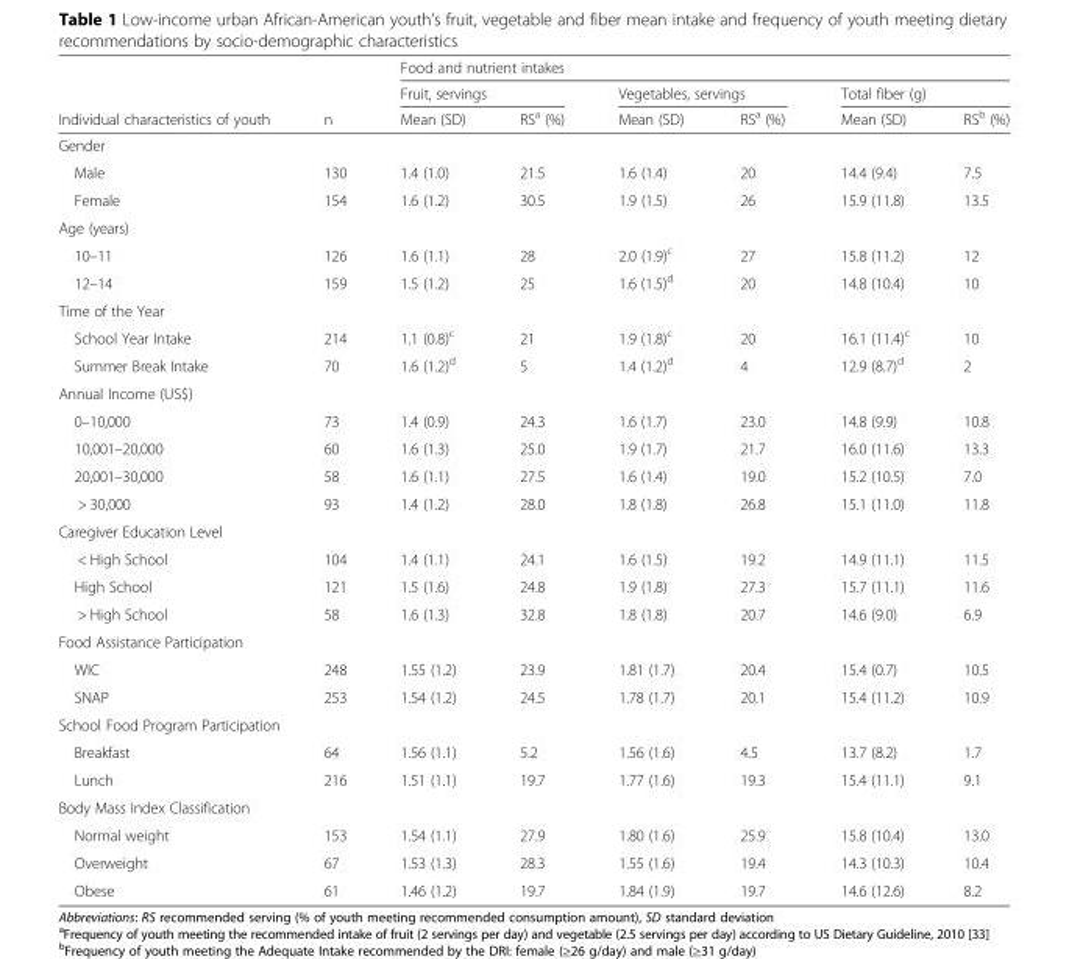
<table><thead><tr><td rowspan="3">Individual characteristics of youth</td><td rowspan="3">n</td><td colspan="6">Food and nutrient intakes</td></tr><tr><td colspan="2">Fruit, servings</td><td colspan="2">Vegetables, servings</td><td colspan="2">Total fiber (g)</td></tr><tr><td>Mean (SD)</td><td>RS<sup>a</sup> (%)</td><td>Mean (SD)</td><td>RS<sup>a</sup> (%)</td><td>Mean (SD)</td><td>RS<sup>b</sup> (%)</td></tr></thead><tbody><tr><td colspan="8">Gender</td></tr><tr><td>Male</td><td>130</td><td>1.4 (1.0)</td><td>21.5</td><td>1.6 (1.4)</td><td>20</td><td>14.4 (9.4)</td><td>7.5</td></tr><tr><td>Female</td><td>154</td><td>1.6 (1.2)</td><td>30.5</td><td>1.9 (1.5)</td><td>26</td><td>15.9 (11.8)</td><td>13.5</td></tr><tr><td colspan="8">Age (years)</td></tr><tr><td>10–11</td><td>126</td><td>1.6 (1.1)</td><td>28</td><td>2.0 (1.9)<sup>c</sup></td><td>27</td><td>15.8 (11.2)</td><td>12</td></tr><tr><td>12–14</td><td>159</td><td>1.5 (1.2)</td><td>25</td><td>1.6 (1.5)<sup>d</sup></td><td>20</td><td>14.8 (10.4)</td><td>10</td></tr><tr><td colspan="8">Time of the Year</td></tr><tr><td>School Year Intake</td><td>214</td><td>1.1 (0.8)<sup>c</sup></td><td>21</td><td>1.9 (1.8)<sup>c</sup></td><td>20</td><td>16.1 (11.4)<sup>c</sup></td><td>10</td></tr><tr><td>Summer Break Intake</td><td>70</td><td>1.6 (1.2)<sup>d</sup></td><td>5</td><td>1.4 (1.2)<sup>d</sup></td><td>4</td><td>12.9 (8.7)<sup>d</sup></td><td>2</td></tr><tr><td colspan="8">Annual Income (US$)</td></tr><tr><td>0–10,000</td><td>73</td><td>1.4 (0.9)</td><td>24.3</td><td>1.6 (1.7)</td><td>23.0</td><td>14.8 (9.9)</td><td>10.8</td></tr><tr><td>10,001–20,000</td><td>60</td><td>1.6 (1.3)</td><td>25.0</td><td>1.9 (1.7)</td><td>21.7</td><td>16.0 (11.6)</td><td>13.3</td></tr><tr><td>20,001–30,000</td><td>58</td><td>1.6 (1.1)</td><td>27.5</td><td>1.6 (1.4)</td><td>19.0</td><td>15.2 (10.5)</td><td>7.0</td></tr><tr><td>&gt; 30,000</td><td>93</td><td>1.4 (1.2)</td><td>28.0</td><td>1.8 (1.8)</td><td>26.8</td><td>15.1 (11.0)</td><td>11.8</td></tr><tr><td colspan="8">Caregiver Education Level</td></tr><tr><td>&lt; High School</td><td>104</td><td>1.4 (1.1)</td><td>24.1</td><td>1.6 (1.5)</td><td>19.2</td><td>14.9 (11.1)</td><td>11.5</td></tr><tr><td>High School</td><td>121</td><td>1.5 (1.6)</td><td>24.8</td><td>1.9 (1.8)</td><td>27.3</td><td>15.7 (11.1)</td><td>11.6</td></tr><tr><td>&gt; High School</td><td>58</td><td>1.6 (1.3)</td><td>32.8</td><td>1.8 (1.8)</td><td>20.7</td><td>14.6 (9.0)</td><td>6.9</td></tr><tr><td colspan="8">Food Assistance Participation</td></tr><tr><td>WIC</td><td>248</td><td>1.55 (1.2)</td><td>23.9</td><td>1.81 (1.7)</td><td>20.4</td><td>15.4 (0.7)</td><td>10.5</td></tr><tr><td>SNAP</td><td>253</td><td>1.54 (1.2)</td><td>24.5</td><td>1.78 (1.7)</td><td>20.1</td><td>15.4 (11.2)</td><td>10.9</td></tr><tr><td colspan="8">School Food Program Participation</td></tr><tr><td>Breakfast</td><td>64</td><td>1.56 (1.1)</td><td>5.2</td><td>1.56 (1.6)</td><td>4.5</td><td>13.7 (8.2)</td><td>1.7</td></tr><tr><td>Lunch</td><td>216</td><td>1.51 (1.1)</td><td>19.7</td><td>1.77 (1.6)</td><td>19.3</td><td>15.4 (11.1)</td><td>9.1</td></tr><tr><td colspan="8">Body Mass Index Classification</td></tr><tr><td>Normal weight</td><td>153</td><td>1.54 (1.1)</td><td>27.9</td><td>1.80 (1.6)</td><td>25.9</td><td>15.8 (10.4)</td><td>13.0</td></tr><tr><td>Overweight</td><td>67</td><td>1.53 (1.3)</td><td>28.3</td><td>1.55 (1.6)</td><td>19.4</td><td>14.3 (10.3)</td><td>10.4</td></tr><tr><td>Obese</td><td>61</td><td>1.46 (1.2)</td><td>19.7</td><td>1.84 (1.9)</td><td>19.7</td><td>14.6 (12.6)</td><td>8.2</td></tr></tbody></table>